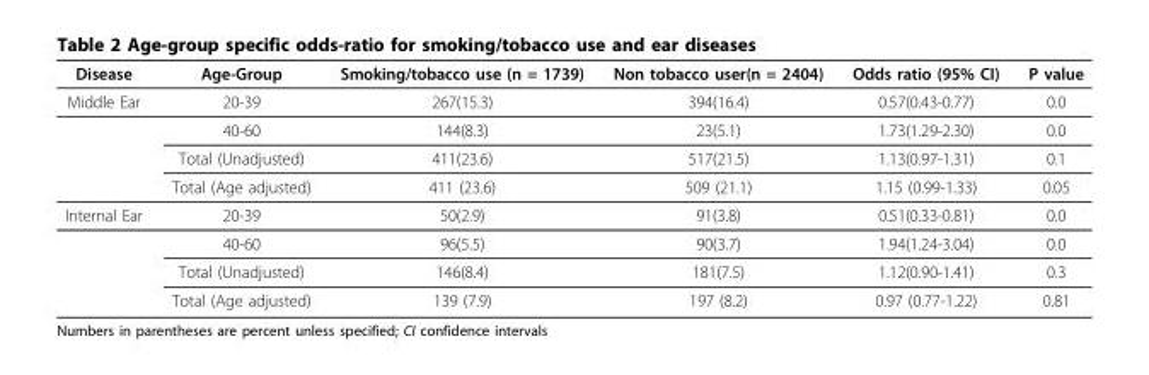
<table><thead><tr><td>Disease</td><td>Age-Group</td><td>Smoking/tobacco use (n = 1739)</td><td>Non tobacco user(n = 2404)</td><td>Odds ratio (95% CI)</td><td>P value</td></tr></thead><tbody><tr><td rowspan="4">Middle Ear</td><td>20-39</td><td>267(15.3)</td><td>394(16.4)</td><td>0.57(0.43-0.77)</td><td>0.0</td></tr><tr><td>40-60</td><td>144(8.3)</td><td>23(5.1)</td><td>1.73(1.29-2.30)</td><td>0.0</td></tr><tr><td>Total (Unadjusted)</td><td>411(23.6)</td><td>517(21.5)</td><td>1.13(0.97-1.31)</td><td>0.1</td></tr><tr><td>Total (Age adjusted)</td><td>411 (23.6)</td><td>509 (21.1)</td><td>1.15 (0.99-1.33)</td><td>0.05</td></tr><tr><td rowspan="4">Internal Ear</td><td>20-39</td><td>50(2.9)</td><td>91(3.8)</td><td>0.51(0.33-0.81)</td><td>0.0</td></tr><tr><td>40-60</td><td>96(5.5)</td><td>90(3.7)</td><td>1.94(1.24-3.04)</td><td>0.0</td></tr><tr><td>Total (Unadjusted)</td><td>146(8.4)</td><td>181(7.5)</td><td>1.12(0.90-1.41)</td><td>0.3</td></tr><tr><td>Total (Age adjusted)</td><td>139 (7.9)</td><td>197 (8.2)</td><td>0.97 (0.77-1.22)</td><td>0.81</td></tr></tbody></table>